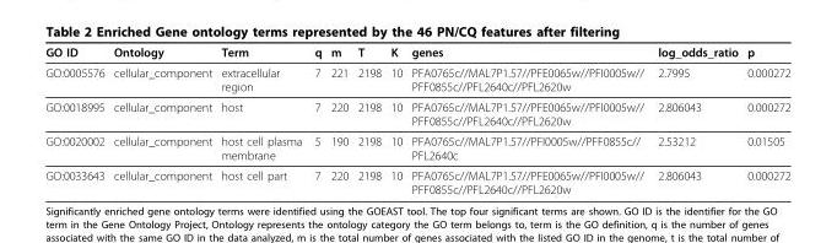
<table><thead><tr><td>GO ID</td><td>Ontology</td><td>Term</td><td>q</td><td>m</td><td>T</td><td>K</td><td>genes</td><td>log_odds_ratio</td><td>p</td></tr></thead><tbody><tr><td>GO:0005576</td><td>cellular_component</td><td>extracellular region</td><td>7</td><td>221</td><td>2198</td><td>10</td><td>PFA0765c//MAL7P1.57//PFE0065w//PFI0005w// PFF0855c//PFL2640c//PFL2620w</td><td>2.7995</td><td>0.000272</td></tr><tr><td>GO:0018995</td><td>cellular_component</td><td>host</td><td>7</td><td>220</td><td>2198</td><td>10</td><td>PFA0765c//MAL7P1.57//PFE0065w//PFI0005w// PFF0855c//PFL2640c//PFL2620w</td><td>2.806043</td><td>0.000272</td></tr><tr><td>GO:0020002</td><td>cellular_component</td><td>host cell plasma membrane</td><td>5</td><td>190</td><td>2198</td><td>10</td><td>PFA0765c//MAL7P1.57//PFI0005w//PFF0855c// PFL2640c</td><td>2.53212</td><td>0.01505</td></tr><tr><td>GO:0033643</td><td>cellular_component</td><td>host cell part</td><td>7</td><td>220</td><td>2198</td><td>10</td><td>PFA0765c//MAL7P1.57//PFE0065w//PFI0005w// PFF0855c//PFL2640c//PFL2620w</td><td>2.806043</td><td>0.000272</td></tr></tbody></table>